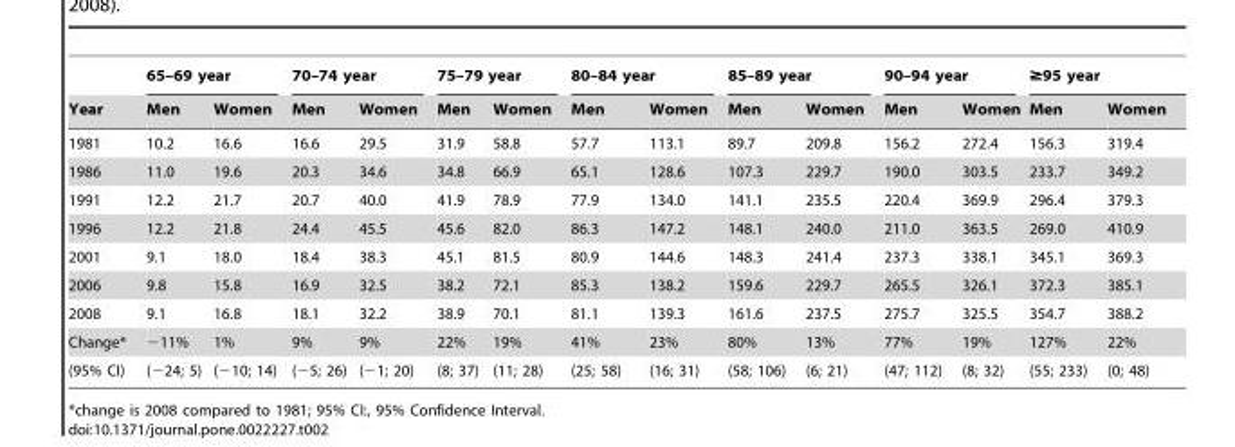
<table><thead><tr><td rowspan="2">Year</td><td colspan="2">65–69 year</td><td colspan="2">70–74 year</td><td colspan="2">75–79 year</td><td colspan="2">80–84 year</td><td colspan="2">85–89 year</td><td colspan="2">90–94 year</td><td colspan="2">≥95 year</td></tr><tr><td>Men</td><td>Women</td><td>Men</td><td>Women</td><td>Men</td><td>Women</td><td>Men</td><td>Women</td><td>Men</td><td>Women</td><td>Men</td><td>Women</td><td>Men</td><td>Women</td></tr></thead><tbody><tr><td>1981</td><td>10.2</td><td>16.6</td><td>16.6</td><td>29.5</td><td>31.9</td><td>58.8</td><td>57.7</td><td>113.1</td><td>89.7</td><td>209.8</td><td>156.2</td><td>272.4</td><td>156.3</td><td>319.4</td></tr><tr><td>1986</td><td>11.0</td><td>19.6</td><td>20.3</td><td>34.6</td><td>34.8</td><td>66.9</td><td>65.1</td><td>128.6</td><td>107.3</td><td>229.7</td><td>190.0</td><td>303.5</td><td>233.7</td><td>349.2</td></tr><tr><td>1991</td><td>12.2</td><td>21.7</td><td>20.7</td><td>40.0</td><td>41.9</td><td>78.9</td><td>77.9</td><td>134.0</td><td>141.1</td><td>235.5</td><td>220.4</td><td>369.9</td><td>296.4</td><td>379.3</td></tr><tr><td>1996</td><td>12.2</td><td>21.8</td><td>24.4</td><td>45.5</td><td>45.6</td><td>82.0</td><td>86.3</td><td>147.2</td><td>148.1</td><td>240.0</td><td>211.0</td><td>363.5</td><td>269.0</td><td>410.9</td></tr><tr><td>2001</td><td>9.1</td><td>18.0</td><td>18.4</td><td>38.3</td><td>45.1</td><td>81.5</td><td>80.9</td><td>144.6</td><td>148.3</td><td>241.4</td><td>237.3</td><td>338.1</td><td>345.1</td><td>369.3</td></tr><tr><td>2006</td><td>9.8</td><td>15.8</td><td>16.9</td><td>32.5</td><td>38.2</td><td>72.1</td><td>85.3</td><td>138.2</td><td>159.6</td><td>229.7</td><td>265.5</td><td>326.1</td><td>372.3</td><td>385.1</td></tr><tr><td>2008</td><td>9.1</td><td>16.8</td><td>18.1</td><td>32.2</td><td>38.9</td><td>70.1</td><td>81.1</td><td>139.3</td><td>161.6</td><td>237.5</td><td>275.7</td><td>325.5</td><td>354.7</td><td>388.2</td></tr><tr><td>Change*</td><td>−11%</td><td>1%</td><td>9%</td><td>9%</td><td>22%</td><td>19%</td><td>41%</td><td>23%</td><td>80%</td><td>13%</td><td>77%</td><td>19%</td><td>127%</td><td>22%</td></tr><tr><td>(95% CI)</td><td>(−24; 5)</td><td>(−10; 14)</td><td>(−5; 26)</td><td>(−1; 20)</td><td>(8; 37)</td><td>(11; 28)</td><td>(25; 58)</td><td>(16; 31)</td><td>(58; 106)</td><td>(6; 21)</td><td>(47; 112)</td><td>(8; 32)</td><td>(55; 233)</td><td>(0; 48)</td></tr></tbody></table>